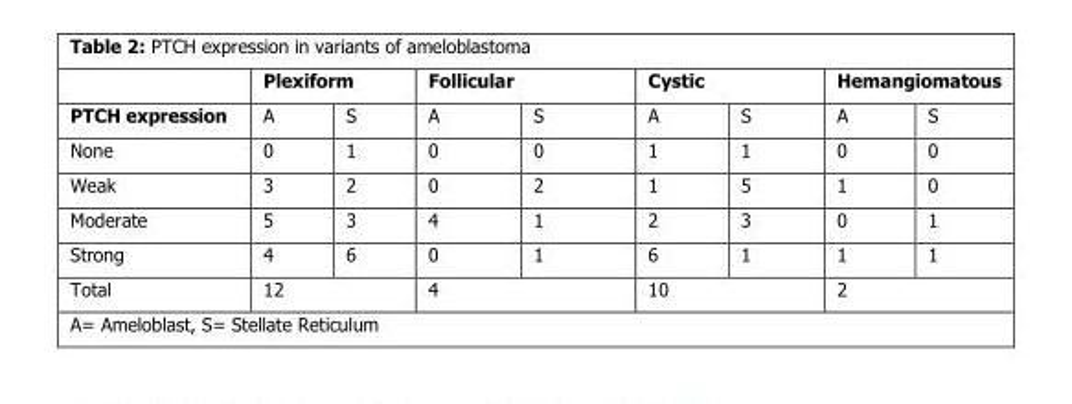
<table><thead><tr><td rowspan="2">PTCH expression</td><td colspan="2">Plexiform</td><td colspan="2">Follicular</td><td colspan="2">Cystic</td><td colspan="2">Hemangiomatous</td></tr><tr><td>A</td><td>S</td><td>A</td><td>S</td><td>A</td><td>S</td><td>A</td><td>S</td></tr></thead><tbody><tr><td>None</td><td>0</td><td>1</td><td>0</td><td>0</td><td>1</td><td>1</td><td>0</td><td>0</td></tr><tr><td>Weak</td><td>3</td><td>2</td><td>0</td><td>2</td><td>1</td><td>5</td><td>1</td><td>0</td></tr><tr><td>Moderate</td><td>5</td><td>3</td><td>4</td><td>1</td><td>2</td><td>3</td><td>0</td><td>1</td></tr><tr><td>Strong</td><td>4</td><td>6</td><td>0</td><td>1</td><td>6</td><td>1</td><td>1</td><td>1</td></tr><tr><td>Total</td><td colspan="2">12</td><td colspan="2">4</td><td colspan="2">10</td><td colspan="2">2</td></tr><tr><td colspan="9">A= Ameloblast, S= Stellate Reticulum</td></tr></tbody></table>